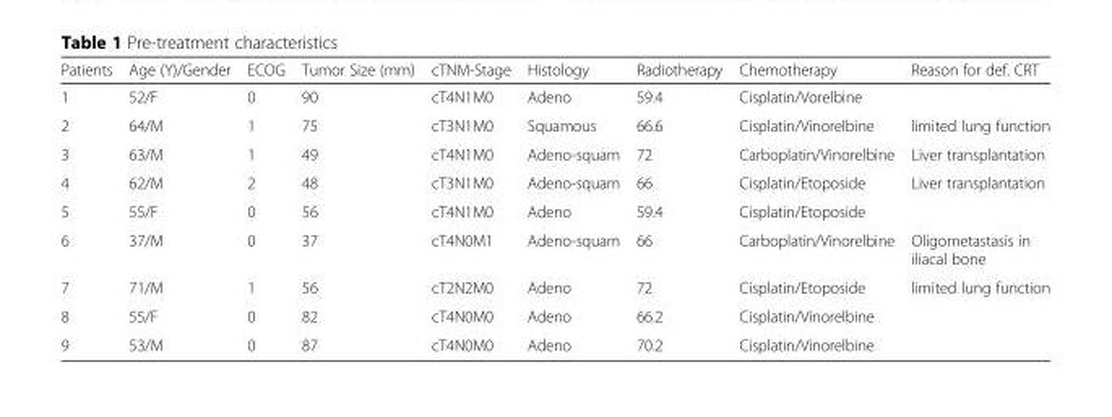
<table><thead><tr><td>Patients</td><td>Age (Y)/Gender</td><td>ECOG</td><td>Tumor Size (mm)</td><td>cTNM-Stage</td><td>Histology</td><td>Radiotherapy</td><td>Chemotherapy</td><td>Reason for def. CRT</td></tr></thead><tbody><tr><td>1</td><td>52/F</td><td>0</td><td>90</td><td>cT4N1M0</td><td>Adeno</td><td>59.4</td><td>Cisplatin/Vorelbine</td><td></td></tr><tr><td>2</td><td>64/M</td><td>1</td><td>75</td><td>cT3N1M0</td><td>Squamous</td><td>66.6</td><td>Cisplatin/Vinorelbine</td><td>limited lung function</td></tr><tr><td>3</td><td>63/M</td><td>1</td><td>49</td><td>cT4N1M0</td><td>Adeno-squam</td><td>72</td><td>Carboplatin/Vinorelbine</td><td>Liver transplantation</td></tr><tr><td>4</td><td>62/M</td><td>2</td><td>48</td><td>cT3N1M0</td><td>Adeno-squam</td><td>66</td><td>Cisplatin/Etoposide</td><td>Liver transplantation</td></tr><tr><td>5</td><td>55/F</td><td>0</td><td>56</td><td>cT4N1M0</td><td>Adeno</td><td>59.4</td><td>Cisplatin/Etoposide</td><td></td></tr><tr><td>6</td><td>37/M</td><td>0</td><td>37</td><td>cT4N0M1</td><td>Adeno-squam</td><td>66</td><td>Carboplatin/Vinorelbine</td><td>Oligometastasis in iliacal bone</td></tr><tr><td>7</td><td>71/M</td><td>1</td><td>56</td><td>cT2N2M0</td><td>Adeno</td><td>72</td><td>Cisplatin/Etoposide</td><td>limited lung function</td></tr><tr><td>8</td><td>55/F</td><td>0</td><td>82</td><td>cT4N0M0</td><td>Adeno</td><td>66.2</td><td>Cisplatin/Vinorelbine</td><td></td></tr><tr><td>9</td><td>53/M</td><td>0</td><td>87</td><td>cT4N0M0</td><td>Adeno</td><td>70.2</td><td>Cisplatin/Vinorelbine</td><td></td></tr></tbody></table>